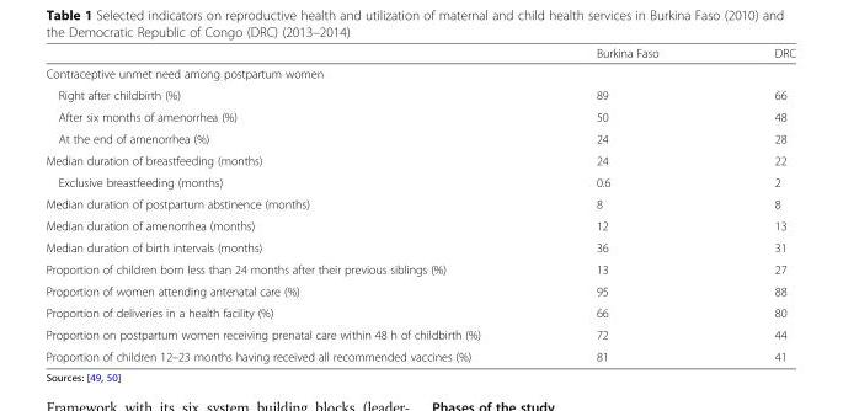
<table><thead><tr><td></td><td>Burkina Faso</td><td>DRC</td></tr></thead><tbody><tr><td colspan="3">Contraceptive unmet need among postpartum women</td></tr><tr><td>Right after childbirth (%)</td><td>89</td><td>66</td></tr><tr><td>After six months of amenorrhea (%)</td><td>50</td><td>48</td></tr><tr><td>At the end of amenorrhea (%)</td><td>24</td><td>28</td></tr><tr><td>Median duration of breastfeeding (months)</td><td>24</td><td>22</td></tr><tr><td>Exclusive breastfeeding (months)</td><td>0.6</td><td>2</td></tr><tr><td>Median duration of postpartum abstinence (months)</td><td>8</td><td>8</td></tr><tr><td>Median duration of amenorrhea (months)</td><td>12</td><td>13</td></tr><tr><td>Median duration of birth intervals (months)</td><td>36</td><td>31</td></tr><tr><td>Proportion of children born less than 24 months after their previous siblings (%)</td><td>13</td><td>27</td></tr><tr><td>Proportion of women attending antenatal care (%)</td><td>95</td><td>88</td></tr><tr><td>Proportion of deliveries in a health facility (%)</td><td>66</td><td>80</td></tr><tr><td>Proportion on postpartum women receiving prenatal care within 48 h of childbirth (%)</td><td>72</td><td>44</td></tr><tr><td>Proportion of children 12–23 months having received all recommended vaccines (%)</td><td>81</td><td>41</td></tr></tbody></table>